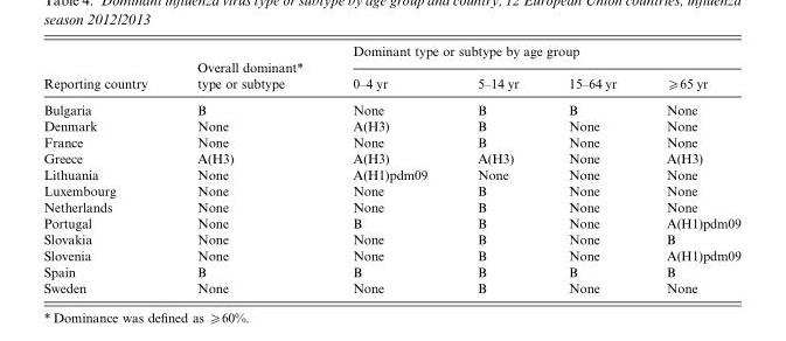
<table><thead><tr><td rowspan="2">Reporting country</td><td rowspan="2">Overall dominant* type or subtype</td><td colspan="4">Dominant type or subtype by age group</td></tr><tr><td>0–4 yr</td><td>5–14 yr</td><td>15–64 yr</td><td>⩾65 yr</td></tr></thead><tbody><tr><td>Bulgaria</td><td>B</td><td>None</td><td>B</td><td>B</td><td>None</td></tr><tr><td>Denmark</td><td>None</td><td>A(H3)</td><td>B</td><td>None</td><td>None</td></tr><tr><td>France</td><td>None</td><td>None</td><td>B</td><td>None</td><td>None</td></tr><tr><td>Greece</td><td>A(H3)</td><td>A(H3)</td><td>A(H3)</td><td>None</td><td>A(H3)</td></tr><tr><td>Lithuania</td><td>None</td><td>A(H1)pdm09</td><td>None</td><td>None</td><td>None</td></tr><tr><td>Luxembourg</td><td>None</td><td>None</td><td>B</td><td>None</td><td>None</td></tr><tr><td>Netherlands</td><td>None</td><td>None</td><td>B</td><td>None</td><td>None</td></tr><tr><td>Portugal</td><td>None</td><td>B</td><td>B</td><td>None</td><td>A(H1)pdm09</td></tr><tr><td>Slovakia</td><td>None</td><td>None</td><td>B</td><td>None</td><td>B</td></tr><tr><td>Slovenia</td><td>None</td><td>None</td><td>B</td><td>None</td><td>A(H1)pdm09</td></tr><tr><td>Spain</td><td>B</td><td>B</td><td>B</td><td>B</td><td>B</td></tr><tr><td>Sweden</td><td>None</td><td>None</td><td>B</td><td>None</td><td>None</td></tr></tbody></table>